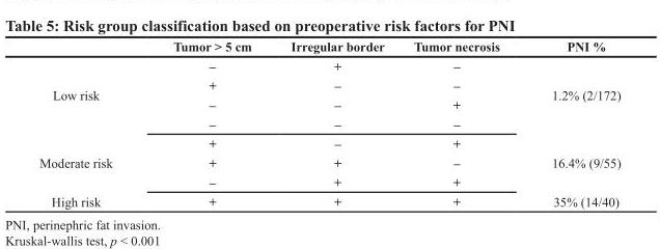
<table><thead><tr><td></td><td>Tumor &gt; 5 cm</td><td>Irregular border</td><td>Tumor necrosis</td><td>PNI %</td></tr></thead><tbody><tr><td rowspan="4">Low risk</td><td>–</td><td>+</td><td>–</td><td rowspan="4">1.2% (2/172)</td></tr><tr><td>+</td><td>–</td><td>–</td></tr><tr><td>–</td><td>–</td><td>+</td></tr><tr><td>–</td><td>–</td><td>–</td></tr><tr><td rowspan="3">Moderate risk</td><td>+</td><td>–</td><td>+</td><td rowspan="3">16.4% (9/55)</td></tr><tr><td>+</td><td>+</td><td>–</td></tr><tr><td>–</td><td>+</td><td>+</td></tr><tr><td>High risk</td><td>+</td><td>+</td><td>+</td><td>35% (14/40)</td></tr></tbody></table>